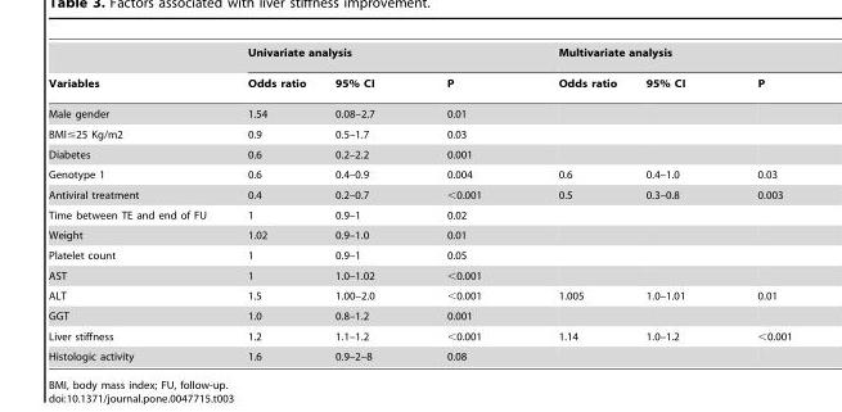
<table><thead><tr><td rowspan="2">Variables</td><td colspan="3">Univariate analysis</td><td colspan="3">Multivariate analysis</td></tr><tr><td>Odds ratio</td><td>95% CI</td><td>P</td><td>Odds ratio</td><td>95% CI</td><td>P</td></tr></thead><tbody><tr><td>Male gender</td><td>1.54</td><td>0.08–2.7</td><td>0.01</td><td></td><td></td><td></td></tr><tr><td>BMI≤25 Kg/m2</td><td>0.9</td><td>0.5–1.7</td><td>0.03</td><td></td><td></td><td></td></tr><tr><td>Diabetes</td><td>0.6</td><td>0.2–2.2</td><td>0.001</td><td></td><td></td><td></td></tr><tr><td>Genotype 1</td><td>0.6</td><td>0.4–0.9</td><td>0.004</td><td>0.6</td><td>0.4–1.0</td><td>0.03</td></tr><tr><td>Antiviral treatment</td><td>0.4</td><td>0.2–0.7</td><td>&lt;0.001</td><td>0.5</td><td>0.3–0.8</td><td>0.003</td></tr><tr><td>Time between TE and end of FU</td><td>1</td><td>0.9–1</td><td>0.02</td><td></td><td></td><td></td></tr><tr><td>Weight</td><td>1.02</td><td>0.9–1.0</td><td>0.01</td><td></td><td></td><td></td></tr><tr><td>Platelet count</td><td>1</td><td>0.9–1</td><td>0.05</td><td></td><td></td><td></td></tr><tr><td>AST</td><td>1</td><td>1.0–1.02</td><td>&lt;0.001</td><td></td><td></td><td></td></tr><tr><td>ALT</td><td>1.5</td><td>1.00–2.0</td><td>&lt;0.001</td><td>1.005</td><td>1.0–1.01</td><td>0.01</td></tr><tr><td>GGT</td><td>1.0</td><td>0.8–1.2</td><td>0.001</td><td></td><td></td><td></td></tr><tr><td>Liver stiffness</td><td>1.2</td><td>1.1–1.2</td><td>&lt;0.001</td><td>1.14</td><td>1.0–1.2</td><td>&lt;0.001</td></tr><tr><td>Histologic activity</td><td>1.6</td><td>0.9–2–8</td><td>0.08</td><td></td><td></td><td></td></tr></tbody></table>